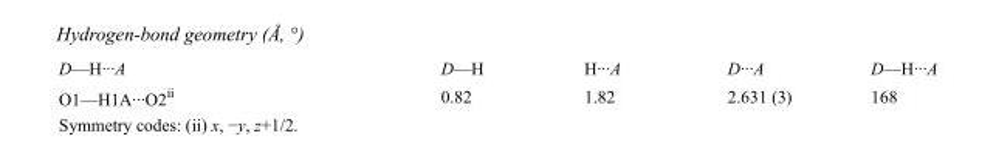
<table><tbody><tr><td>D—H···A</td><td>D—H</td><td>H···A</td><td>D···A</td><td>D—H···A</td></tr><tr><td>O1—H1A···O2<sup>ii</sup></td><td>0.82</td><td>1.82</td><td>2.631 (3)</td><td>168</td></tr></tbody></table>